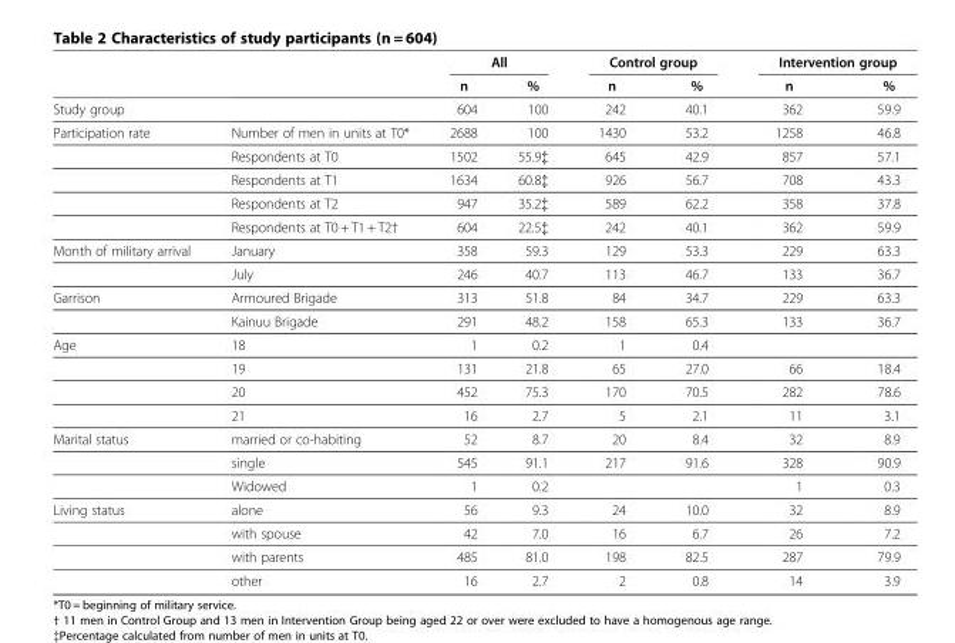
<table><thead><tr><td rowspan="2"></td><td rowspan="2"></td><td colspan="2">All</td><td colspan="2">Control group</td><td colspan="2">Intervention group</td></tr><tr><td>n</td><td>%</td><td>n</td><td>%</td><td>n</td><td>%</td></tr></thead><tbody><tr><td>Study group</td><td></td><td>604</td><td>100</td><td>242</td><td>40.1</td><td>362</td><td>59.9</td></tr><tr><td rowspan="5">Participation rate</td><td>Number of men in units at T0*</td><td>2688</td><td>100</td><td>1430</td><td>53.2</td><td>1258</td><td>46.8</td></tr><tr><td>Respondents at T0</td><td>1502</td><td>55.9‡</td><td>645</td><td>42.9</td><td>857</td><td>57.1</td></tr><tr><td>Respondents at T1</td><td>1634</td><td>60.8‡</td><td>926</td><td>56.7</td><td>708</td><td>43.3</td></tr><tr><td>Respondents at T2</td><td>947</td><td>35.2‡</td><td>589</td><td>62.2</td><td>358</td><td>37.8</td></tr><tr><td>Respondents at T0 + T1 + T2†</td><td>604</td><td>22.5‡</td><td>242</td><td>40.1</td><td>362</td><td>59.9</td></tr><tr><td rowspan="2">Month of military arrival</td><td>January</td><td>358</td><td>59.3</td><td>129</td><td>53.3</td><td>229</td><td>63.3</td></tr><tr><td>July</td><td>246</td><td>40.7</td><td>113</td><td>46.7</td><td>133</td><td>36.7</td></tr><tr><td rowspan="2">Garrison</td><td>Armoured Brigade</td><td>313</td><td>51.8</td><td>84</td><td>34.7</td><td>229</td><td>63.3</td></tr><tr><td>Kainuu Brigade</td><td>291</td><td>48.2</td><td>158</td><td>65.3</td><td>133</td><td>36.7</td></tr><tr><td rowspan="4">Age</td><td>18</td><td>1</td><td>0.2</td><td>1</td><td>0.4</td><td></td><td></td></tr><tr><td>19</td><td>131</td><td>21.8</td><td>65</td><td>27.0</td><td>66</td><td>18.4</td></tr><tr><td>20</td><td>452</td><td>75.3</td><td>170</td><td>70.5</td><td>282</td><td>78.6</td></tr><tr><td>21</td><td>16</td><td>2.7</td><td>5</td><td>2.1</td><td>11</td><td>3.1</td></tr><tr><td rowspan="3">Marital status</td><td>married or co-habiting</td><td>52</td><td>8.7</td><td>20</td><td>8.4</td><td>32</td><td>8.9</td></tr><tr><td>single</td><td>545</td><td>91.1</td><td>217</td><td>91.6</td><td>328</td><td>90.9</td></tr><tr><td>Widowed</td><td>1</td><td>0.2</td><td></td><td></td><td>1</td><td>0.3</td></tr><tr><td rowspan="4">Living status</td><td>alone</td><td>56</td><td>9.3</td><td>24</td><td>10.0</td><td>32</td><td>8.9</td></tr><tr><td>with spouse</td><td>42</td><td>7.0</td><td>16</td><td>6.7</td><td>26</td><td>7.2</td></tr><tr><td>with parents</td><td>485</td><td>81.0</td><td>198</td><td>82.5</td><td>287</td><td>79.9</td></tr><tr><td>other</td><td>16</td><td>2.7</td><td>2</td><td>0.8</td><td>14</td><td>3.9</td></tr></tbody></table>